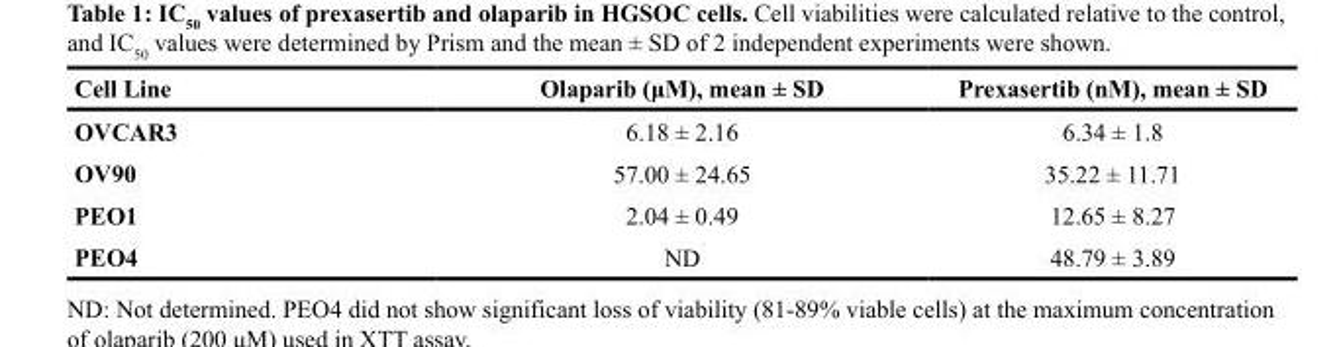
<table><thead><tr><td>Cell Line</td><td>Olaparib (μM), mean ± SD</td><td>Prexasertib (nM), mean ± SD</td></tr></thead><tbody><tr><td>OVCAR3</td><td>6.18 ± 2.16</td><td>6.34 ± 1.8</td></tr><tr><td>OV90</td><td>57.00 ± 24.65</td><td>35.22 ± 11.71</td></tr><tr><td>PEO1</td><td>2.04 ± 0.49</td><td>12.65 ± 8.27</td></tr><tr><td>PEO4</td><td>ND</td><td>48.79 ± 3.89</td></tr></tbody></table>